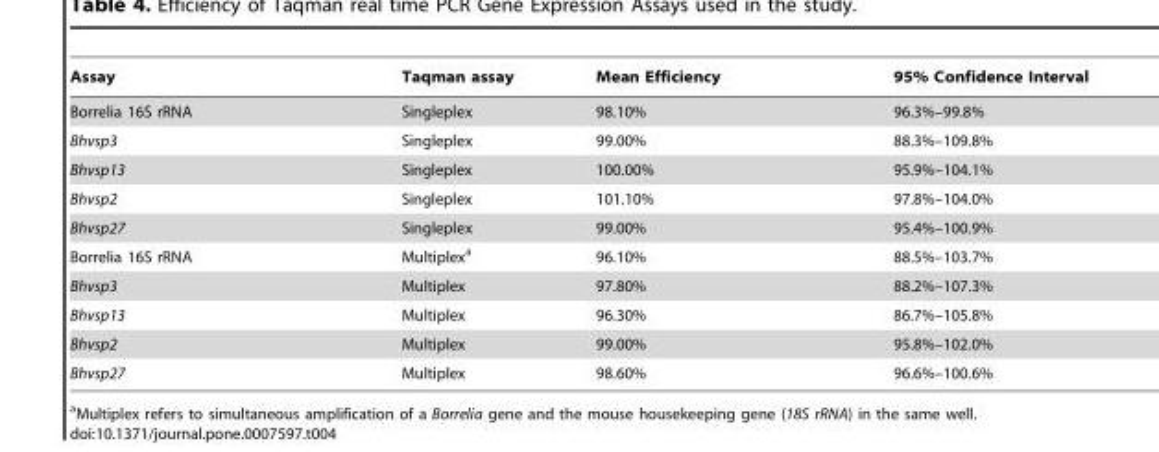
<table><thead><tr><td>Assay</td><td>Taqman assay</td><td>Mean Efficiency</td><td>95% Confidence Interval</td></tr></thead><tbody><tr><td>Borrelia 16S rRNA</td><td>Singleplex</td><td>98.10%</td><td>96.3%–99.8%</td></tr><tr><td>Bhvsp3</td><td>Singleplex</td><td>99.00%</td><td>88.3%–109.8%</td></tr><tr><td>Bhvsp13</td><td>Singleplex</td><td>100.00%</td><td>95.9%–104.1%</td></tr><tr><td>Bhvsp2</td><td>Singleplex</td><td>101.10%</td><td>97.8%–104.0%</td></tr><tr><td>Bhvsp27</td><td>Singleplex</td><td>99.00%</td><td>95.4%–100.9%</td></tr><tr><td>Borrelia 16S rRNA</td><td>Multiplex<sup>a</sup></td><td>96.10%</td><td>88.5%–103.7%</td></tr><tr><td>Bhvsp3</td><td>Multiplex</td><td>97.80%</td><td>88.2%–107.3%</td></tr><tr><td>Bhvsp13</td><td>Multiplex</td><td>96.30%</td><td>86.7%–105.8%</td></tr><tr><td>Bhvsp2</td><td>Multiplex</td><td>99.00%</td><td>95.8%–102.0%</td></tr><tr><td>Bhvsp27</td><td>Multiplex</td><td>98.60%</td><td>96.6%–100.6%</td></tr></tbody></table>